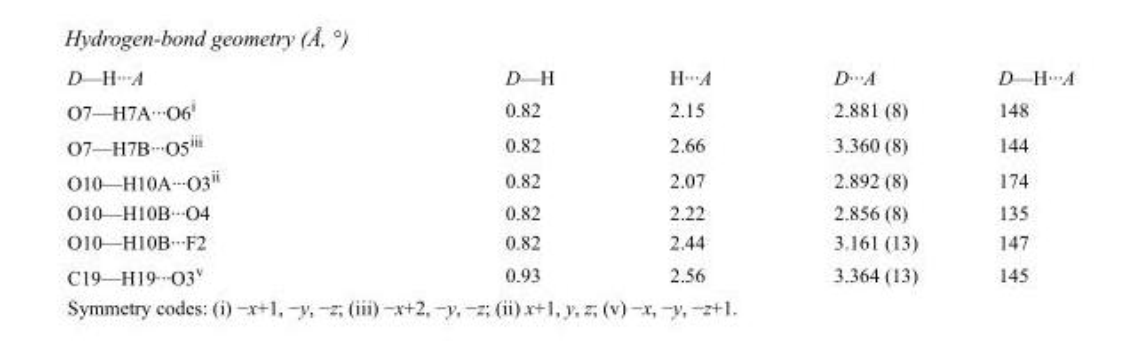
<table><tbody><tr><td>D—H···A</td><td>D—H</td><td>H···A</td><td>D···A</td><td>D—H···A</td></tr><tr><td>O7—H7A···O6<sup>i</sup></td><td>0.82</td><td>2.15</td><td>2.881 (8)</td><td>148</td></tr><tr><td>O7—H7B···O5<sup>iii</sup></td><td>0.82</td><td>2.66</td><td>3.360 (8)</td><td>144</td></tr><tr><td>O10—H10A···O3<sup>ii</sup></td><td>0.82</td><td>2.07</td><td>2.892 (8)</td><td>174</td></tr><tr><td>O10—H10B···O4</td><td>0.82</td><td>2.22</td><td>2.856 (8)</td><td>135</td></tr><tr><td>O10—H10B···F2</td><td>0.82</td><td>2.44</td><td>3.161 (13)</td><td>147</td></tr><tr><td>C19—H19···O3<sup>v</sup></td><td>0.93</td><td>2.56</td><td>3.364 (13)</td><td>145</td></tr></tbody></table>